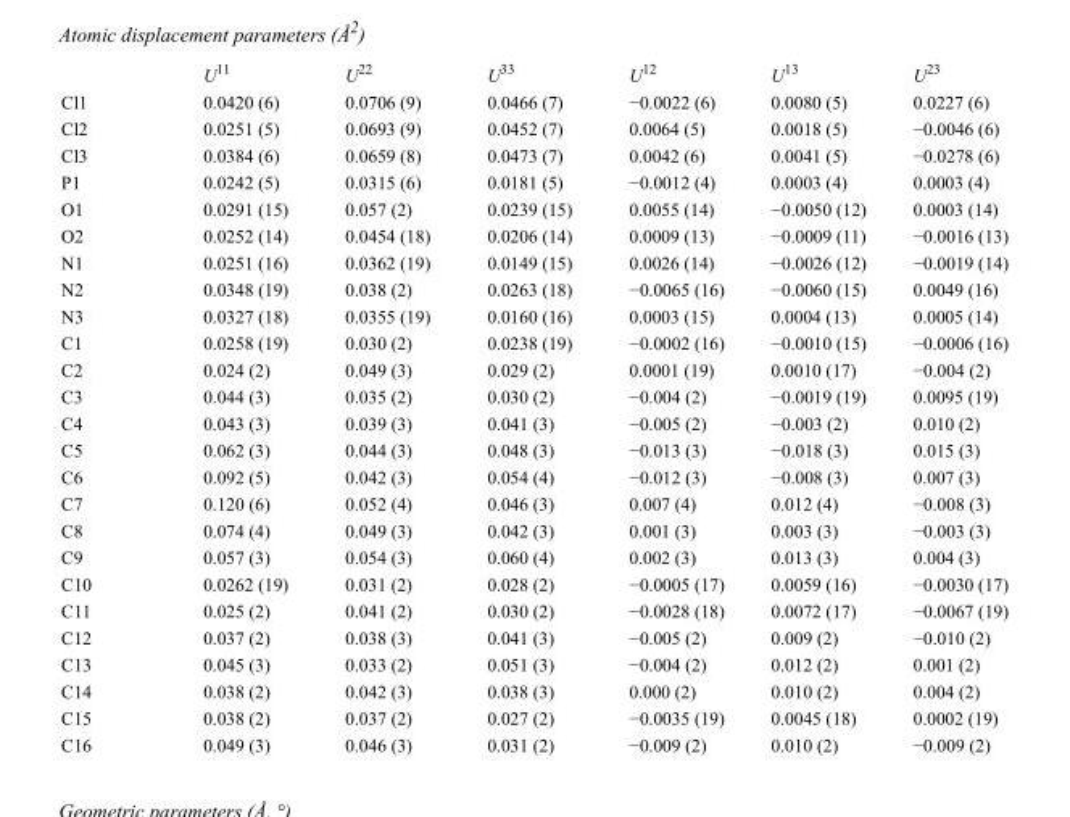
<table><thead><tr><td></td><td>U<sup>11</sup></td><td>U<sup>22</sup></td><td>U<sup>33</sup></td><td>U<sup>12</sup></td><td>U<sup>13</sup></td><td>U<sup>23</sup></td></tr></thead><tbody><tr><td>Cl1</td><td>0.0420 (6)</td><td>0.0706 (9)</td><td>0.0466 (7)</td><td>−0.0022 (6)</td><td>0.0080 (5)</td><td>0.0227 (6)</td></tr><tr><td>Cl2</td><td>0.0251 (5)</td><td>0.0693 (9)</td><td>0.0452 (7)</td><td>0.0064 (5)</td><td>0.0018 (5)</td><td>−0.0046 (6)</td></tr><tr><td>Cl3</td><td>0.0384 (6)</td><td>0.0659 (8)</td><td>0.0473 (7)</td><td>0.0042 (6)</td><td>0.0041 (5)</td><td>−0.0278 (6)</td></tr><tr><td>P1</td><td>0.0242 (5)</td><td>0.0315 (6)</td><td>0.0181 (5)</td><td>−0.0012 (4)</td><td>0.0003 (4)</td><td>0.0003 (4)</td></tr><tr><td>O1</td><td>0.0291 (15)</td><td>0.057 (2)</td><td>0.0239 (15)</td><td>0.0055 (14)</td><td>−0.0050 (12)</td><td>0.0003 (14)</td></tr><tr><td>O2</td><td>0.0252 (14)</td><td>0.0454 (18)</td><td>0.0206 (14)</td><td>0.0009 (13)</td><td>−0.0009 (11)</td><td>−0.0016 (13)</td></tr><tr><td>N1</td><td>0.0251 (16)</td><td>0.0362 (19)</td><td>0.0149 (15)</td><td>0.0026 (14)</td><td>−0.0026 (12)</td><td>−0.0019 (14)</td></tr><tr><td>N2</td><td>0.0348 (19)</td><td>0.038 (2)</td><td>0.0263 (18)</td><td>−0.0065 (16)</td><td>−0.0060 (15)</td><td>0.0049 (16)</td></tr><tr><td>N3</td><td>0.0327 (18)</td><td>0.0355 (19)</td><td>0.0160 (16)</td><td>0.0003 (15)</td><td>0.0004 (13)</td><td>0.0005 (14)</td></tr><tr><td>C1</td><td>0.0258 (19)</td><td>0.030 (2)</td><td>0.0238 (19)</td><td>−0.0002 (16)</td><td>−0.0010 (15)</td><td>−0.0006 (16)</td></tr><tr><td>C2</td><td>0.024 (2)</td><td>0.049 (3)</td><td>0.029 (2)</td><td>0.0001 (19)</td><td>0.0010 (17)</td><td>−0.004 (2)</td></tr><tr><td>C3</td><td>0.044 (3)</td><td>0.035 (2)</td><td>0.030 (2)</td><td>−0.004 (2)</td><td>−0.0019 (19)</td><td>0.0095 (19)</td></tr><tr><td>C4</td><td>0.043 (3)</td><td>0.039 (3)</td><td>0.041 (3)</td><td>−0.005 (2)</td><td>−0.003 (2)</td><td>0.010 (2)</td></tr><tr><td>C5</td><td>0.062 (3)</td><td>0.044 (3)</td><td>0.048 (3)</td><td>−0.013 (3)</td><td>−0.018 (3)</td><td>0.015 (3)</td></tr><tr><td>C6</td><td>0.092 (5)</td><td>0.042 (3)</td><td>0.054 (4)</td><td>−0.012 (3)</td><td>−0.008 (3)</td><td>0.007 (3)</td></tr><tr><td>C7</td><td>0.120 (6)</td><td>0.052 (4)</td><td>0.046 (3)</td><td>0.007 (4)</td><td>0.012 (4)</td><td>−0.008 (3)</td></tr><tr><td>C8</td><td>0.074 (4)</td><td>0.049 (3)</td><td>0.042 (3)</td><td>0.001 (3)</td><td>0.003 (3)</td><td>−0.003 (3)</td></tr><tr><td>C9</td><td>0.057 (3)</td><td>0.054 (3)</td><td>0.060 (4)</td><td>0.002 (3)</td><td>0.013 (3)</td><td>0.004 (3)</td></tr><tr><td>C10</td><td>0.0262 (19)</td><td>0.031 (2)</td><td>0.028 (2)</td><td>−0.0005 (17)</td><td>0.0059 (16)</td><td>−0.0030 (17)</td></tr><tr><td>C11</td><td>0.025 (2)</td><td>0.041 (2)</td><td>0.030 (2)</td><td>−0.0028 (18)</td><td>0.0072 (17)</td><td>−0.0067 (19)</td></tr><tr><td>C12</td><td>0.037 (2)</td><td>0.038 (3)</td><td>0.041 (3)</td><td>−0.005 (2)</td><td>0.009 (2)</td><td>−0.010 (2)</td></tr><tr><td>C13</td><td>0.045 (3)</td><td>0.033 (2)</td><td>0.051 (3)</td><td>−0.004 (2)</td><td>0.012 (2)</td><td>0.001 (2)</td></tr><tr><td>C14</td><td>0.038 (2)</td><td>0.042 (3)</td><td>0.038 (3)</td><td>0.000 (2)</td><td>0.010 (2)</td><td>0.004 (2)</td></tr><tr><td>C15</td><td>0.038 (2)</td><td>0.037 (2)</td><td>0.027 (2)</td><td>−0.0035 (19)</td><td>0.0045 (18)</td><td>0.0002 (19)</td></tr><tr><td>C16</td><td>0.049 (3)</td><td>0.046 (3)</td><td>0.031 (2)</td><td>−0.009 (2)</td><td>0.010 (2)</td><td>−0.009 (2)</td></tr></tbody></table>